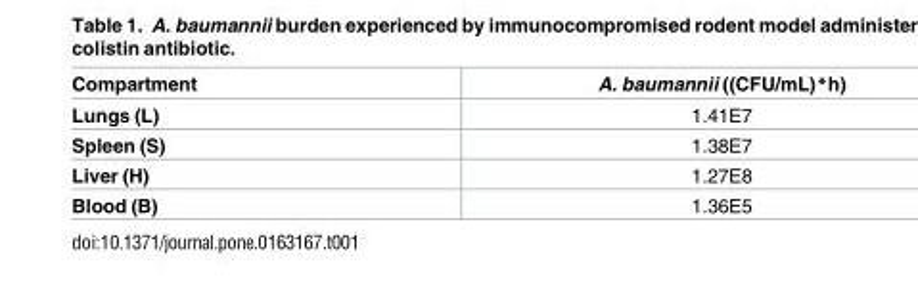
<table><thead><tr><td>Compartment</td><td>A. baumannii ((CFU/mL)*h)</td></tr></thead><tbody><tr><td>Lungs (L)</td><td>1.41E7</td></tr><tr><td>Spleen (S)</td><td>1.38E7</td></tr><tr><td>Liver (H)</td><td>1.27E8</td></tr><tr><td>Blood (B)</td><td>1.36E5</td></tr></tbody></table>